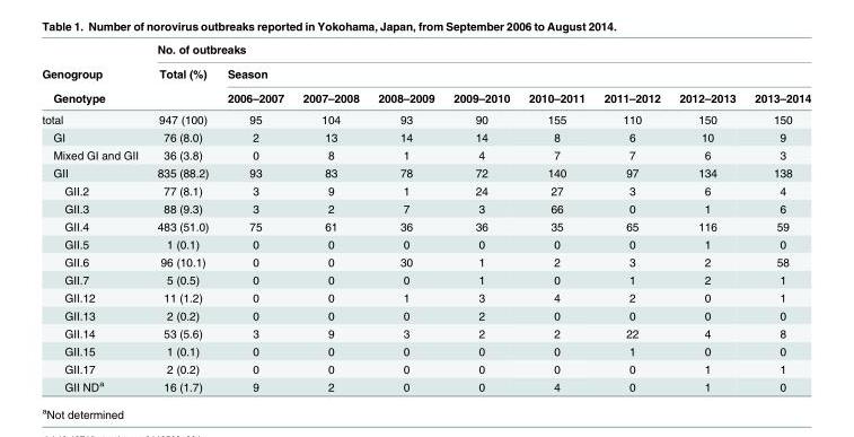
<table><thead><tr><td rowspan="3">Genogroup Genotype</td><td colspan="9">No. of outbreaks</td></tr><tr><td rowspan="2">Total (%)</td><td colspan="8">Season</td></tr><tr><td>2006–2007</td><td>2007–2008</td><td>2008–2009</td><td>2009–2010</td><td>2010–2011</td><td>2011–2012</td><td>2012–2013</td><td>2013–2014</td></tr></thead><tbody><tr><td>total</td><td>947 (100)</td><td>95</td><td>104</td><td>93</td><td>90</td><td>155</td><td>110</td><td>150</td><td>150</td></tr><tr><td>GI</td><td>76 (8.0)</td><td>2</td><td>13</td><td>14</td><td>14</td><td>8</td><td>6</td><td>10</td><td>9</td></tr><tr><td>Mixed GI and GII</td><td>36 (3.8)</td><td>0</td><td>8</td><td>1</td><td>4</td><td>7</td><td>7</td><td>6</td><td>3</td></tr><tr><td>GII</td><td>835 (88.2)</td><td>93</td><td>83</td><td>78</td><td>72</td><td>140</td><td>97</td><td>134</td><td>138</td></tr><tr><td>GII.2</td><td>77 (8.1)</td><td>3</td><td>9</td><td>1</td><td>24</td><td>27</td><td>3</td><td>6</td><td>4</td></tr><tr><td>GII.3</td><td>88 (9.3)</td><td>3</td><td>2</td><td>7</td><td>3</td><td>66</td><td>0</td><td>1</td><td>6</td></tr><tr><td>GII.4</td><td>483 (51.0)</td><td>75</td><td>61</td><td>36</td><td>36</td><td>35</td><td>65</td><td>116</td><td>59</td></tr><tr><td>GII.5</td><td>1 (0.1)</td><td>0</td><td>0</td><td>0</td><td>0</td><td>0</td><td>0</td><td>1</td><td>0</td></tr><tr><td>GII.6</td><td>96 (10.1)</td><td>0</td><td>0</td><td>30</td><td>1</td><td>2</td><td>3</td><td>2</td><td>58</td></tr><tr><td>GII.7</td><td>5 (0.5)</td><td>0</td><td>0</td><td>0</td><td>1</td><td>0</td><td>1</td><td>2</td><td>1</td></tr><tr><td>GII.12</td><td>11 (1.2)</td><td>0</td><td>0</td><td>1</td><td>3</td><td>4</td><td>2</td><td>0</td><td>1</td></tr><tr><td>GII.13</td><td>2 (0.2)</td><td>0</td><td>0</td><td>0</td><td>2</td><td>0</td><td>0</td><td>0</td><td>0</td></tr><tr><td>GII.14</td><td>53 (5.6)</td><td>3</td><td>9</td><td>3</td><td>2</td><td>2</td><td>22</td><td>4</td><td>8</td></tr><tr><td>GII.15</td><td>1 (0.1)</td><td>0</td><td>0</td><td>0</td><td>0</td><td>0</td><td>1</td><td>0</td><td>0</td></tr><tr><td>GII.17</td><td>2 (0.2)</td><td>0</td><td>0</td><td>0</td><td>0</td><td>0</td><td>0</td><td>1</td><td>1</td></tr><tr><td>GII ND<sup>a</sup></td><td>16 (1.7)</td><td>9</td><td>2</td><td>0</td><td>0</td><td>4</td><td>0</td><td>1</td><td>0</td></tr></tbody></table>